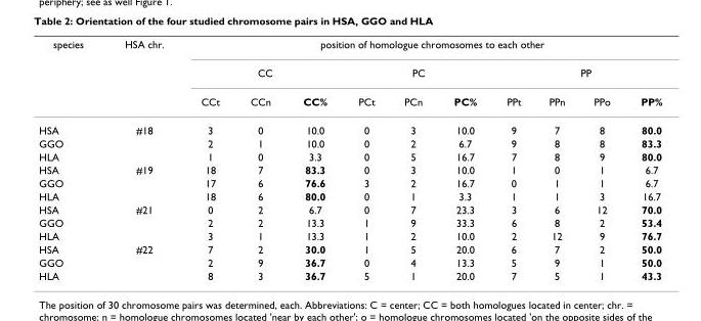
<table><thead><tr><td rowspan="3">species</td><td rowspan="3">HSA chr.</td><td colspan="10">position of homologue chromosomes to each other</td></tr><tr><td colspan="3">CC</td><td colspan="3">PC</td><td colspan="4">PP</td></tr><tr><td>CCt</td><td>CCn</td><td>CC%</td><td>PCt</td><td>PCn</td><td>PC%</td><td>PPt</td><td>PPn</td><td>PPo</td><td>PP%</td></tr></thead><tbody><tr><td>HSA</td><td>#18</td><td>3</td><td>0</td><td>10.0</td><td>0</td><td>3</td><td>10.0</td><td>9</td><td>7</td><td>8</td><td>80.0</td></tr><tr><td>GGO</td><td></td><td>2</td><td>1</td><td>10.0</td><td>0</td><td>2</td><td>6.7</td><td>9</td><td>8</td><td>8</td><td>83.3</td></tr><tr><td>HLA</td><td></td><td>1</td><td>0</td><td>3.3</td><td>0</td><td>5</td><td>16.7</td><td>7</td><td>8</td><td>9</td><td>80.0</td></tr><tr><td>HSA</td><td>#19</td><td>18</td><td>7</td><td>83.3</td><td>0</td><td>3</td><td>10.0</td><td>1</td><td>0</td><td>1</td><td>6.7</td></tr><tr><td>GGO</td><td></td><td>17</td><td>6</td><td>76.6</td><td>3</td><td>2</td><td>16.7</td><td>0</td><td>1</td><td>1</td><td>6.7</td></tr><tr><td>HLA</td><td></td><td>18</td><td>6</td><td>80.0</td><td>0</td><td>1</td><td>3.3</td><td>1</td><td>1</td><td>3</td><td>16.7</td></tr><tr><td>HSA</td><td>#21</td><td>0</td><td>2</td><td>6.7</td><td>0</td><td>7</td><td>23.3</td><td>3</td><td>6</td><td>12</td><td>70.0</td></tr><tr><td>GGO</td><td></td><td>2</td><td>2</td><td>13.3</td><td>1</td><td>9</td><td>33.3</td><td>6</td><td>8</td><td>2</td><td>53.4</td></tr><tr><td>HLA</td><td></td><td>3</td><td>1</td><td>13.3</td><td>1</td><td>2</td><td>10.0</td><td>2</td><td>12</td><td>9</td><td>76.7</td></tr><tr><td>HSA</td><td>#22</td><td>7</td><td>2</td><td>30.0</td><td>1</td><td>5</td><td>20.0</td><td>6</td><td>7</td><td>2</td><td>50.0</td></tr><tr><td>GGO</td><td></td><td>2</td><td>9</td><td>36.7</td><td>0</td><td>4</td><td>13.3</td><td>5</td><td>9</td><td>1</td><td>50.0</td></tr><tr><td>HLA</td><td></td><td>8</td><td>3</td><td>36.7</td><td>5</td><td>1</td><td>20.0</td><td>7</td><td>5</td><td>1</td><td>43.3</td></tr></tbody></table>